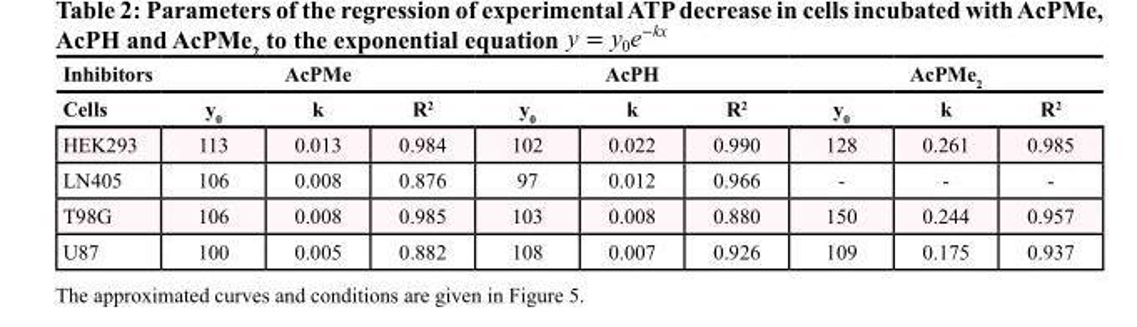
<table><thead><tr><td rowspan="2">Inhibitors Cells</td><td colspan="3">AcPMe</td><td colspan="3">AcPH</td><td colspan="3">AcPMe<sub>2</sub></td></tr><tr><td>y<sub>0</sub></td><td>k</td><td>R<sup>2</sup></td><td>y<sub>0</sub></td><td>k</td><td>R<sup>2</sup></td><td>y<sub>0</sub></td><td>k</td><td>R<sup>2</sup></td></tr></thead><tbody><tr><td>HEK293</td><td>113</td><td>0.013</td><td>0.984</td><td>102</td><td>0.022</td><td>0.990</td><td>128</td><td>0.261</td><td>0.985</td></tr><tr><td>LN405</td><td>106</td><td>0.008</td><td>0.876</td><td>97</td><td>0.012</td><td>0.966</td><td>-</td><td>-</td><td>-</td></tr><tr><td>T98G</td><td>106</td><td>0.008</td><td>0.985</td><td>103</td><td>0.008</td><td>0.880</td><td>150</td><td>0.244</td><td>0.957</td></tr><tr><td>U87</td><td>100</td><td>0.005</td><td>0.882</td><td>108</td><td>0.007</td><td>0.926</td><td>109</td><td>0.175</td><td>0.937</td></tr></tbody></table>